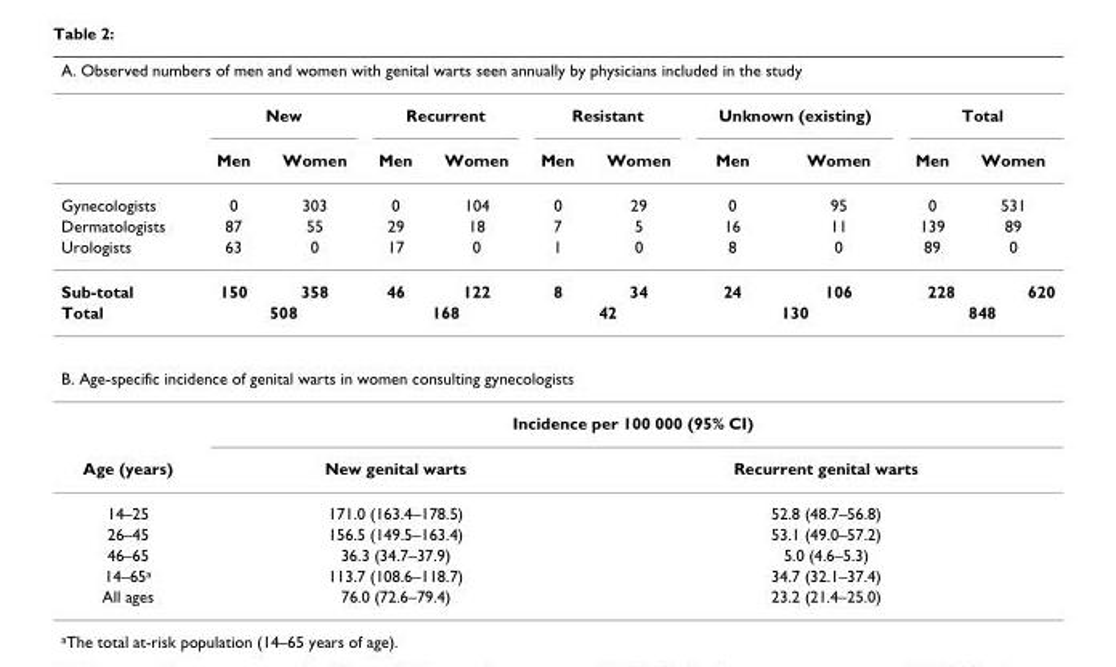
<table><thead><tr><td colspan="11">A. Observed numbers of men and women with genital warts seen annually by physicians included in the study</td></tr><tr><td rowspan="2"></td><td colspan="2">New</td><td colspan="2">Recurrent</td><td colspan="2">Resistant</td><td colspan="2">Unknown (existing)</td><td colspan="2">Total</td></tr><tr><td>Men</td><td>Women</td><td>Men</td><td>Women</td><td>Men</td><td>Women</td><td>Men</td><td>Women</td><td>Men</td><td>Women</td></tr></thead><tbody><tr><td>Gynecologists</td><td>0</td><td>303</td><td>0</td><td>104</td><td>0</td><td>29</td><td>0</td><td>95</td><td>0</td><td>531</td></tr><tr><td>Dermatologists</td><td>87</td><td>55</td><td>29</td><td>18</td><td>7</td><td>5</td><td>16</td><td>11</td><td>139</td><td>89</td></tr><tr><td>Urologists</td><td>63</td><td>0</td><td>17</td><td>0</td><td>1</td><td>0</td><td>8</td><td>0</td><td>89</td><td>0</td></tr><tr><td>Sub-total</td><td>150</td><td>358</td><td>46</td><td>122</td><td>8</td><td>34</td><td>24</td><td>106</td><td>228</td><td>620</td></tr><tr><td>Total</td><td colspan="2">508</td><td colspan="2">168</td><td colspan="2">42</td><td colspan="2">130</td><td colspan="2">848</td></tr><tr><td colspan="11">B. Age-specific incidence of genital warts in women consulting gynecologists</td></tr><tr><td></td><td colspan="10">Incidence per 100 000 (95% CI)</td></tr><tr><td>Age (years)</td><td colspan="5">New genital warts</td><td colspan="5">Recurrent genital warts</td></tr><tr><td>14–25</td><td colspan="5">171.0 (163.4–178.5)</td><td colspan="5">52.8 (48.7–56.8)</td></tr><tr><td>26–45</td><td colspan="5">156.5 (149.5–163.4)</td><td colspan="5">53.1 (49.0–57.2)</td></tr><tr><td>46–65</td><td colspan="5">36.3 (34.7–37.9)</td><td colspan="5">5.0 (4.6–5.3)</td></tr><tr><td>14–65<sup>a</sup></td><td colspan="5">113.7 (108.6–118.7)</td><td colspan="5">34.7 (32.1–37.4)</td></tr><tr><td>All ages</td><td colspan="5">76.0 (72.6–79.4)</td><td colspan="5">23.2 (21.4–25.0)</td></tr></tbody></table>